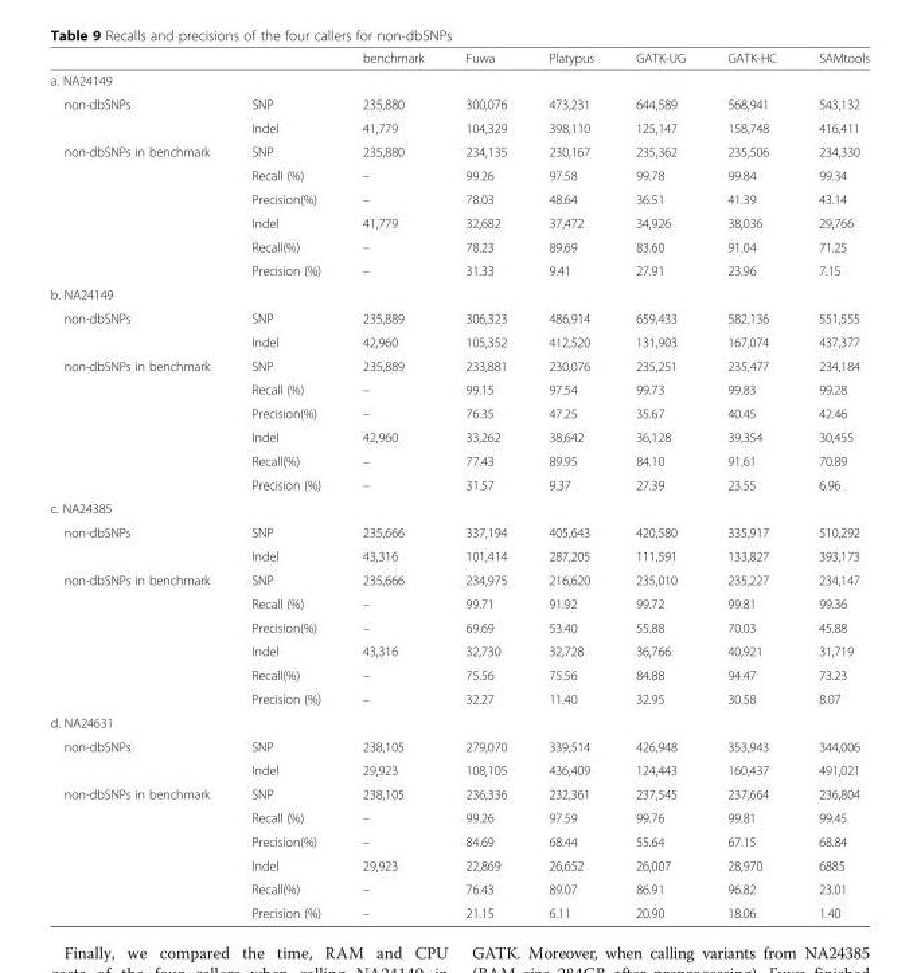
<table><thead><tr><td></td><td></td><td>benchmark</td><td>Fuwa</td><td>Platypus</td><td>GATK-UG</td><td>GATK-HC</td><td>SAMtools</td></tr></thead><tbody><tr><td colspan="8">a. NA24149</td></tr><tr><td rowspan="2">non-dbSNPs</td><td>SNP</td><td>235,880</td><td>300,076</td><td>473,231</td><td>644,589</td><td>568,941</td><td>543,132</td></tr><tr><td>Indel</td><td>41,779</td><td>104,329</td><td>398,110</td><td>125,147</td><td>158,748</td><td>416,411</td></tr><tr><td rowspan="6">non-dbSNPs in benchmark</td><td>SNP</td><td>235,880</td><td>234,135</td><td>230,167</td><td>235,362</td><td>235,506</td><td>234,330</td></tr><tr><td>Recall (%)</td><td>–</td><td>99.26</td><td>97.58</td><td>99.78</td><td>99.84</td><td>99.34</td></tr><tr><td>Precision(%)</td><td>–</td><td>78.03</td><td>48.64</td><td>36.51</td><td>41.39</td><td>43.14</td></tr><tr><td>Indel</td><td>41,779</td><td>32,682</td><td>37,472</td><td>34,926</td><td>38,036</td><td>29,766</td></tr><tr><td>Recall(%)</td><td>–</td><td>78.23</td><td>89.69</td><td>83.60</td><td>91.04</td><td>71.25</td></tr><tr><td>Precision (%)</td><td>–</td><td>31.33</td><td>9.41</td><td>27.91</td><td>23.96</td><td>7.15</td></tr><tr><td colspan="8">b. NA24149</td></tr><tr><td rowspan="2">non-dbSNPs</td><td>SNP</td><td>235,889</td><td>306,323</td><td>486,914</td><td>659,433</td><td>582,136</td><td>551,555</td></tr><tr><td>Indel</td><td>42,960</td><td>105,352</td><td>412,520</td><td>131,903</td><td>167,074</td><td>437,377</td></tr><tr><td rowspan="6">non-dbSNPs in benchmark</td><td>SNP</td><td>235,889</td><td>233,881</td><td>230,076</td><td>235,251</td><td>235,477</td><td>234,184</td></tr><tr><td>Recall (%)</td><td>–</td><td>99.15</td><td>97.54</td><td>99.73</td><td>99.83</td><td>99.28</td></tr><tr><td>Precision(%)</td><td>–</td><td>76.35</td><td>47.25</td><td>35.67</td><td>40.45</td><td>42.46</td></tr><tr><td>Indel</td><td>42,960</td><td>33,262</td><td>38,642</td><td>36,128</td><td>39,354</td><td>30,455</td></tr><tr><td>Recall(%)</td><td>–</td><td>77.43</td><td>89.95</td><td>84.10</td><td>91.61</td><td>70.89</td></tr><tr><td>Precision (%)</td><td>–</td><td>31.57</td><td>9.37</td><td>27.39</td><td>23.55</td><td>6.96</td></tr><tr><td colspan="8">c. NA24385</td></tr><tr><td rowspan="2">non-dbSNPs</td><td>SNP</td><td>235,666</td><td>337,194</td><td>405,643</td><td>420,580</td><td>335,917</td><td>510,292</td></tr><tr><td>Indel</td><td>43,316</td><td>101,414</td><td>287,205</td><td>111,591</td><td>133,827</td><td>393,173</td></tr><tr><td rowspan="6">non-dbSNPs in benchmark</td><td>SNP</td><td>235,666</td><td>234,975</td><td>216,620</td><td>235,010</td><td>235,227</td><td>234,147</td></tr><tr><td>Recall (%)</td><td>–</td><td>99.71</td><td>91.92</td><td>99.72</td><td>99.81</td><td>99.36</td></tr><tr><td>Precision(%)</td><td>–</td><td>69.69</td><td>53.40</td><td>55.88</td><td>70.03</td><td>45.88</td></tr><tr><td>Indel</td><td>43,316</td><td>32,730</td><td>32,728</td><td>36,766</td><td>40,921</td><td>31,719</td></tr><tr><td>Recall(%)</td><td>–</td><td>75.56</td><td>75.56</td><td>84.88</td><td>94.47</td><td>73.23</td></tr><tr><td>Precision (%)</td><td>–</td><td>32.27</td><td>11.40</td><td>32.95</td><td>30.58</td><td>8.07</td></tr><tr><td colspan="8">d. NA24631</td></tr><tr><td rowspan="2">non-dbSNPs</td><td>SNP</td><td>238,105</td><td>279,070</td><td>339,514</td><td>426,948</td><td>353,943</td><td>344,006</td></tr><tr><td>Indel</td><td>29,923</td><td>108,105</td><td>436,409</td><td>124,443</td><td>160,437</td><td>491,021</td></tr><tr><td rowspan="6">non-dbSNPs in benchmark</td><td>SNP</td><td>238,105</td><td>236,336</td><td>232,361</td><td>237,545</td><td>237,664</td><td>236,804</td></tr><tr><td>Recall (%)</td><td>–</td><td>99.26</td><td>97.59</td><td>99.76</td><td>99.81</td><td>99.45</td></tr><tr><td>Precision(%)</td><td>–</td><td>84.69</td><td>68.44</td><td>55.64</td><td>67.15</td><td>68.84</td></tr><tr><td>Indel</td><td>29,923</td><td>22,869</td><td>26,652</td><td>26,007</td><td>28,970</td><td>6885</td></tr><tr><td>Recall(%)</td><td>–</td><td>76.43</td><td>89.07</td><td>86.91</td><td>96.82</td><td>23.01</td></tr><tr><td>Precision (%)</td><td>–</td><td>21.15</td><td>6.11</td><td>20.90</td><td>18.06</td><td>1.40</td></tr></tbody></table>